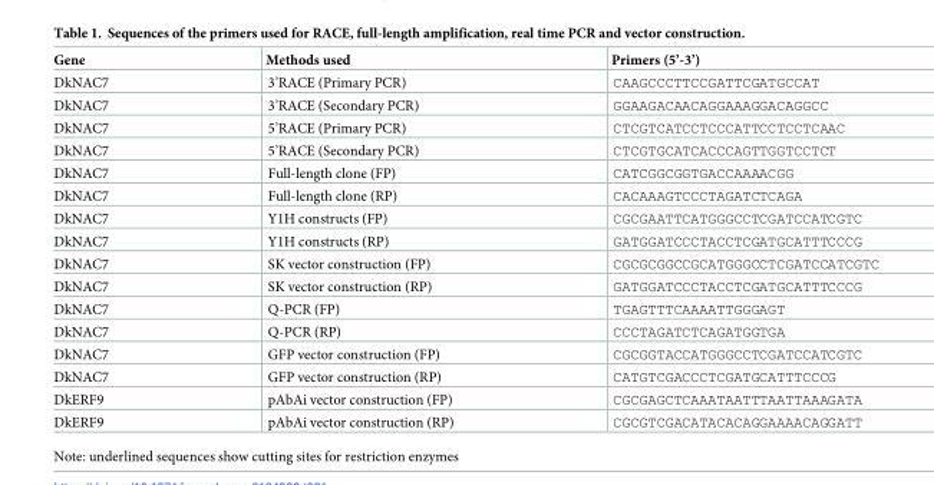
<table><thead><tr><td>Gene</td><td>Methods used</td><td>Primers (5’-3’)</td></tr></thead><tbody><tr><td>DkNAC7</td><td>3’RACE (Primary PCR)</td><td>CAAGCCCTTCCGATTCGATGCCAT</td></tr><tr><td>DkNAC7</td><td>3’RACE (Secondary PCR)</td><td>GGAAGACAACAGGAAAGGACAGGCC</td></tr><tr><td>DkNAC7</td><td>5’RACE (Primary PCR)</td><td>CTCGTCATCCTCCCATTCCTCCTCAAC</td></tr><tr><td>DkNAC7</td><td>5’RACE (Secondary PCR)</td><td>CTCGTGCATCACCCAGTTGGTCCTCT</td></tr><tr><td>DkNAC7</td><td>Full-length clone (FP)</td><td>CATCGGCGGTGACCAAAACGG</td></tr><tr><td>DkNAC7</td><td>Full-length clone (RP)</td><td>CACAAAGTCCCTAGATCTCAGA</td></tr><tr><td>DkNAC7</td><td>Y1H constructs (FP)</td><td>CGCGAATTCATGGGCCTCGATCCATCGTC</td></tr><tr><td>DkNAC7</td><td>Y1H constructs (RP)</td><td>GATGGATCCCTACCTCGATGCATTTCCCG</td></tr><tr><td>DkNAC7</td><td>SK vector construction (FP)</td><td>CGCGCGGCCGCATGGGCCTCGATCCATCGTC</td></tr><tr><td>DkNAC7</td><td>SK vector construction (RP)</td><td>GATGGATCCCTACCTCGATGCATTTCCCG</td></tr><tr><td>DkNAC7</td><td>Q-PCR (FP)</td><td>TGAGTTTCAAAATTGGGAGT</td></tr><tr><td>DkNAC7</td><td>Q-PCR (RP)</td><td>CCCTAGATCTCAGATGGTGA</td></tr><tr><td>DkNAC7</td><td>GFP vector construction (FP)</td><td>CGCGGTACCATGGGCCTCGATCCATCGTC</td></tr><tr><td>DkNAC7</td><td>GFP vector construction (RP)</td><td>CATGTCGACCCTCGATGCATTTCCCG</td></tr><tr><td>DkERF9</td><td>pAbAi vector construction (FP)</td><td>CGCGAGCTCAAATAATTTAATTAAAGATA</td></tr><tr><td>DkERF9</td><td>pAbAi vector construction (RP)</td><td>CGCGTCGACATACACAGGAAAACAGGATT</td></tr></tbody></table>